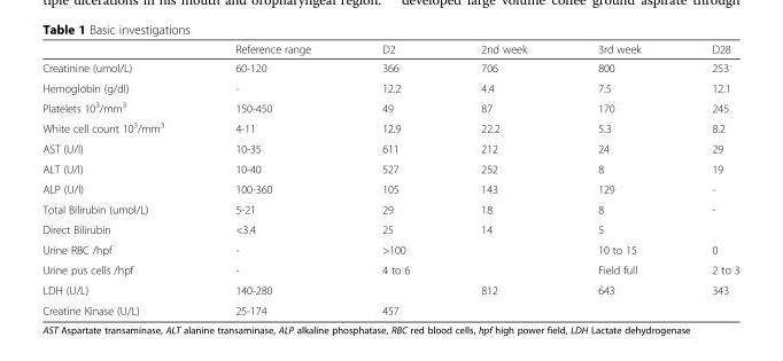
<table><thead><tr><td></td><td>Reference range</td><td>D2</td><td>2nd week</td><td>3rd week</td><td>D28</td></tr></thead><tbody><tr><td>Creatinine (umol/L)</td><td>60-120</td><td>366</td><td>706</td><td>800</td><td>253</td></tr><tr><td>Hemoglobin (g/dl)</td><td>-</td><td>12.2</td><td>4.4</td><td>7.5</td><td>12.1</td></tr><tr><td>Platelets 10<sup>3</sup>/mm<sup>3</sup></td><td>150-450</td><td>49</td><td>87</td><td>170</td><td>245</td></tr><tr><td>White cell count 10<sup>3</sup>/mm<sup>3</sup></td><td>4-11</td><td>12.9</td><td>22.2</td><td>5.3</td><td>8.2</td></tr><tr><td>AST (U/l)</td><td>10-35</td><td>611</td><td>212</td><td>24</td><td>29</td></tr><tr><td>ALT (U/l)</td><td>10-40</td><td>527</td><td>252</td><td>8</td><td>19</td></tr><tr><td>ALP (U/l)</td><td>100-360</td><td>105</td><td>143</td><td>129</td><td>-</td></tr><tr><td>Total Bilirubin (umol/L)</td><td>5-21</td><td>29</td><td>18</td><td>8</td><td>-</td></tr><tr><td>Direct Bilirubin</td><td>&lt;3.4</td><td>25</td><td>14</td><td>5</td><td></td></tr><tr><td>Urine RBC /hpf</td><td>-</td><td>&gt;100</td><td></td><td>10 to 15</td><td>0</td></tr><tr><td>Urine pus cells /hpf</td><td>-</td><td>4 to 6</td><td></td><td>Field full</td><td>2 to 3</td></tr><tr><td>LDH (U/L)</td><td>140-280</td><td></td><td>812</td><td>643</td><td>343</td></tr><tr><td>Creatine Kinase (U/L)</td><td>25-174</td><td>457</td><td></td><td></td><td></td></tr></tbody></table>